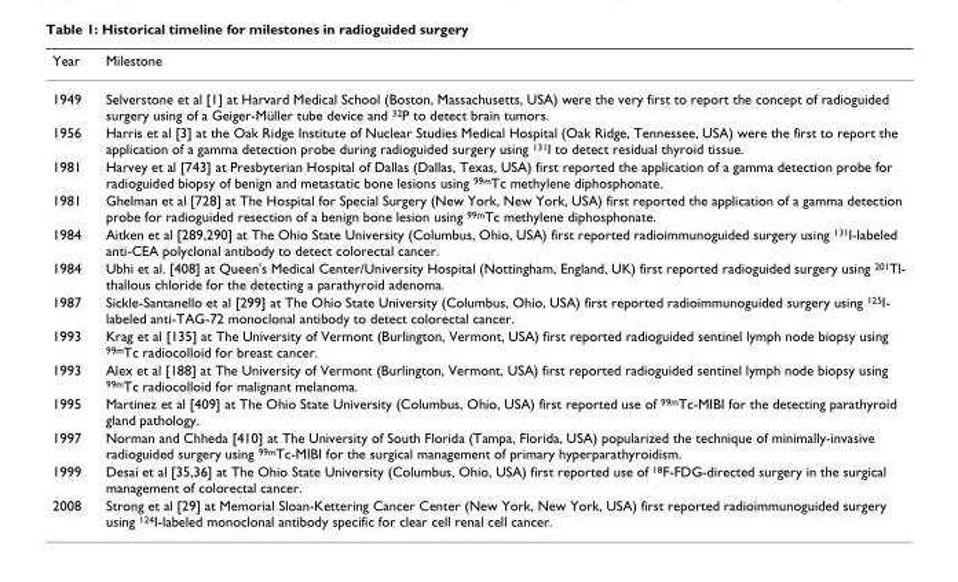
<table><thead><tr><td>Year</td><td>Milestone</td></tr></thead><tbody><tr><td>1949</td><td>Selverstone et al [1] at Harvard Medical School (Boston, Massachusetts, USA) were the very first to report the concept of radioguided surgery using of a Geiger-Müller tube device and <sup>32</sup>P to detect brain tumors.</td></tr><tr><td>1956</td><td>Harris et al [3] at the Oak Ridge Institute of Nuclear Studies Medical Hospital (Oak Ridge, Tennessee, USA) were the first to report the application of a gamma detection probe during radioguided surgery using <sup>131</sup>I to detect residual thyroid tissue.</td></tr><tr><td>1981</td><td>Harvey et al [743] at Presbyterian Hospital of Dallas (Dallas, Texas, USA) first reported the application of a gamma detection probe for radioguided biopsy of benign and metastatic bone lesions using <sup>99m</sup>Tc methylene diphosphonate.</td></tr><tr><td>1981</td><td>Ghelman et al [728] at The Hospital for Special Surgery (New York, New York, USA) first reported the application of a gamma detection probe for radioguided resection of a benign bone lesion using <sup>99m</sup>Tc methylene diphosphonate.</td></tr><tr><td>1984</td><td>Aitken et al [289,290] at The Ohio State University (Columbus, Ohio, USA) first reported radioimmunoguided surgery using <sup>131</sup>I-labeled anti-CEA polyclonal antibody to detect colorectal cancer.</td></tr><tr><td>1984</td><td>Ubhi et al. [408] at Queen&#x27;s Medical Center/University Hospital (Nottingham, England, UK) first reported radioguided surgery using <sup>201</sup>Tl- thallous chloride for the detecting a parathyroid adenoma.</td></tr><tr><td>1987</td><td>Sickle-Santanello et al [299] at The Ohio State University (Columbus, Ohio, USA) first reported radioimmunoguided surgery using <sup>125</sup>I- labeled anti-TAG-72 monoclonal antibody to detect colorectal cancer.</td></tr><tr><td>1993</td><td>Krag et al [135] at The University of Vermont (Burlington, Vermont, USA) first reported radioguided sentinel lymph node biopsy using <sup>99m</sup>Tc radiocolloid for breast cancer.</td></tr><tr><td>1993</td><td>Alex et al [188] at The University of Vermont (Burlington, Vermont, USA) first reported radioguided sentinel lymph node biopsy using <sup>99m</sup>Tc radiocolloid for malignant melanoma.</td></tr><tr><td>1995</td><td>Martinez et al [409] at The Ohio State University (Columbus, Ohio, USA) first reported use of <sup>99m</sup>Tc-MIBI for the detecting parathyroid gland pathology.</td></tr><tr><td>1997</td><td>Norman and Chheda [410] at The University of South Florida (Tampa, Florida, USA) popularized the technique of minimally-invasive radioguided surgery using <sup>99m</sup>Tc-MIBI for the surgical management of primary hyperparathyroidism.</td></tr><tr><td>1999</td><td>Desai et al [35,36] at The Ohio State University (Columbus, Ohio, USA) first reported use of <sup>18</sup>F-FDG-directed surgery in the surgical management of colorectal cancer.</td></tr><tr><td>2008</td><td>Strong et al [29] at Memorial Sloan-Kettering Cancer Center (New York, New York, USA) first reported radioimmunoguided surgery using <sup>124</sup>I-labeled monoclonal antibody specific for clear cell renal cell cancer.</td></tr></tbody></table>